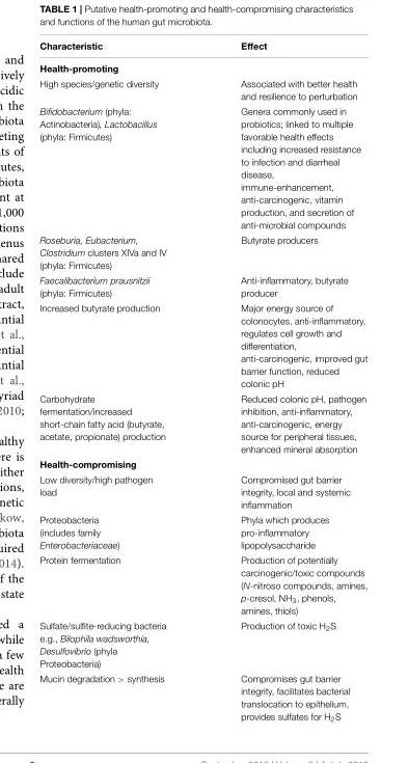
<table><thead><tr><td>Characteristic</td><td>Effect</td></tr></thead><tbody><tr><td colspan="2">Health-promoting</td></tr><tr><td>High species/genetic diversity</td><td>Associated with better health and resilience to perturbation</td></tr><tr><td>Bifidobacterium (phyla: Actinobacteria), Lactobacillus (phyla: Firmicutes)</td><td>Genera commonly used in probiotics; linked to multiple favorable health effects including increased resistance to infection and diarrheal disease, immune-enhancement, anti-carcinogenic, vitamin production, and secretion of anti-microbial compounds</td></tr><tr><td>Roseburia, Eubacterium, Clostridium clusters XIVa and IV (phyla: Firmicutes)</td><td>Butyrate producers</td></tr><tr><td>Faecalibacterium prausnitzii (phyla: Firmicutes)</td><td>Anti-inflammatory, butyrate producer</td></tr><tr><td>Increased butyrate production</td><td>Major energy source of colonocytes, anti-inflammatory, regulates cell growth and differentiation, anti-carcinogenic, improved gut barrier function, reduced colonic pH</td></tr><tr><td>Carbohydrate fermentation/increased short-chain fatty acid (butyrate, acetate, propionate) production</td><td>Reduced colonic pH, pathogen inhibition, anti-inflammatory, anti-carcinogenic, energy source for peripheral tissues, enhanced mineral absorption</td></tr><tr><td colspan="2">Health-compromising</td></tr><tr><td>Low diversity/high pathogen load</td><td>Compromised gut barrier integrity, local and systemic inflammation</td></tr><tr><td>Proteobacteria (includes family Enterobacteriaceae)</td><td>Phyla which produces pro-inflammatory lipopolysaccharide</td></tr><tr><td>Protein fermentation</td><td>Production of potentially carcinogenic/toxic compounds (N-nitroso compounds, amines, p-cresol, NH<sub>3</sub>, phenols, amines, thiols)</td></tr><tr><td>Sulfate/sulfite-reducing bacteria e.g., Bilophila wadsworthia, Desulfovibrio (phyla Proteobacteria)</td><td>Production of toxic H<sub>2</sub>S</td></tr><tr><td>Mucin degradation &gt; synthesis</td><td>Compromises gut barrier integrity, facilitates bacterial translocation to epithelium, provides sulfates for H<sub>2</sub>S</td></tr></tbody></table>